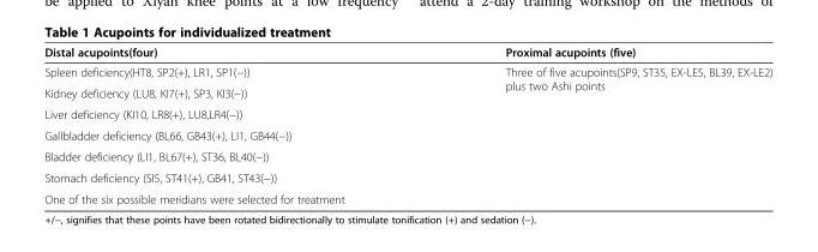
<table><thead><tr><td>Distal acupoints(four)</td><td>Proximal acupoints (five)</td></tr></thead><tbody><tr><td>Spleen deficiency(HT8, SP2(+), LR1, SP1(−))</td><td rowspan="6">Three of five acupoints(SP9, ST35, EX-LE5, BL39, EX-LE2) plus two Ashi points</td></tr><tr><td>Kidney deficiency (LU8, KI7(+), SP3, KI3(−))</td></tr><tr><td>Liver deficiency (KI10, LR8(+), LU8,LR4(−))</td></tr><tr><td>Gallbladder deficiency (BL66, GB43(+), LI1, GB44(−))</td></tr><tr><td>Bladder deficiency (LI1, BL67(+), ST36, BL40(−))</td></tr><tr><td>Stomach deficiency (SI5, ST41(+), GB41, ST43(−))</td></tr><tr><td>One of the six possible meridians were selected for treatment</td><td></td></tr></tbody></table>